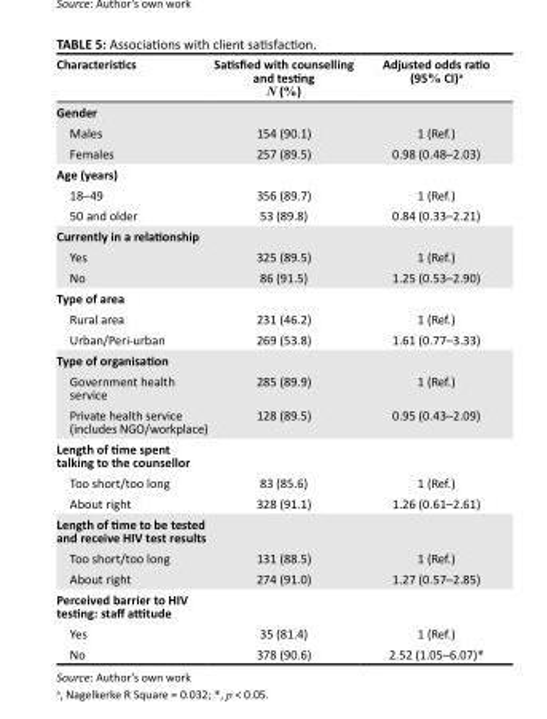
<table><thead><tr><td>Characteristics</td><td>Satisfied with counselling and testing N (%)</td><td>Adjusted odds ratio (95% CI)<sup>a</sup></td></tr></thead><tbody><tr><td colspan="3">Gender</td></tr><tr><td>Males</td><td>154 (90.1)</td><td>1 (Ref.)</td></tr><tr><td>Females</td><td>257 (89.5)</td><td>0.98 (0.48–2.03)</td></tr><tr><td colspan="3">Age (years)</td></tr><tr><td>18–49</td><td>356 (89.7)</td><td>1 (Ref.)</td></tr><tr><td>50 and older</td><td>53 (89.8)</td><td>0.84 (0.33–2.21)</td></tr><tr><td colspan="3">Currently in a relationship</td></tr><tr><td>Yes</td><td>325 (89.5)</td><td>1 (Ref.)</td></tr><tr><td>No</td><td>86 (91.5)</td><td>1.25 (0.53–2.90)</td></tr><tr><td colspan="3">Type of area</td></tr><tr><td>Rural area</td><td>231 (46.2)</td><td>1 (Ref.)</td></tr><tr><td>Urban/Peri-urban</td><td>269 (53.8)</td><td>1.61 (0.77–3.33)</td></tr><tr><td colspan="3">Type of organisation</td></tr><tr><td>Government health service</td><td>285 (89.9)</td><td>1 (Ref.)</td></tr><tr><td>Private health service (includes NGO/workplace)</td><td>128 (89.5)</td><td>0.95 (0.43–2.09)</td></tr><tr><td colspan="3">Length of time spent talking to the counsellor</td></tr><tr><td>Too short/too long</td><td>83 (85.6)</td><td>1 (Ref.)</td></tr><tr><td>About right</td><td>328 (91.1)</td><td>1.26 (0.61–2.61)</td></tr><tr><td colspan="3">Length of time to be tested and receive HIV test results</td></tr><tr><td>Too short/too long</td><td>131 (88.5)</td><td>1 (Ref.)</td></tr><tr><td>About right</td><td>274 (91.0)</td><td>1.27 (0.57–2.85)</td></tr><tr><td colspan="3">Perceived barrier to HIV testing: staff attitude</td></tr><tr><td>Yes</td><td>35 (81.4)</td><td>1 (Ref.)</td></tr><tr><td>No</td><td>378 (90.6)</td><td>2.52 (1.05–6.07)*</td></tr></tbody></table>